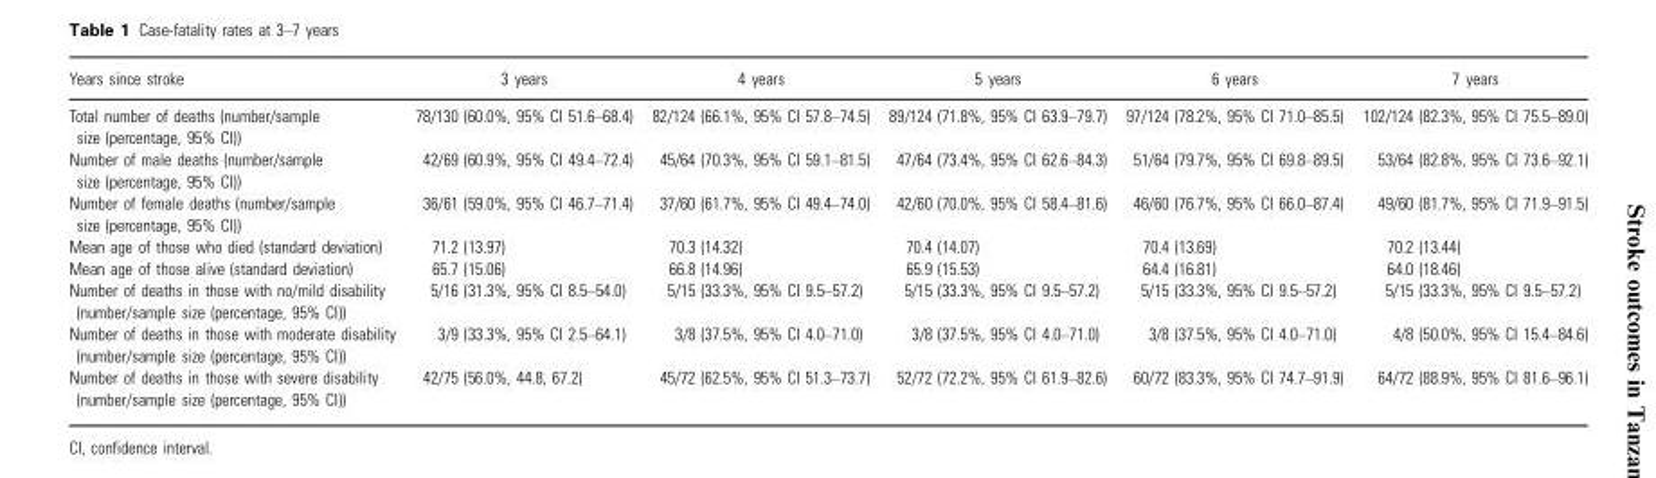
<table><thead><tr><td>Years since stroke</td><td>3 years</td><td>4 years</td><td>5 years</td><td>6 years</td><td>7 years</td></tr></thead><tbody><tr><td>Total number of deaths (number/sample size (percentage, 95% CI))</td><td>78/130 (60.0%, 95% CI 51.6–68.4)</td><td>82/124 (66.1%, 95% CI 57.8–74.5)</td><td>89/124 (71.8%, 95% CI 63.9–79.7)</td><td>97/124 (78.2%, 95% CI 71.0–85.5)</td><td>102/124 (82.3%, 95% CI 75.5–89.0)</td></tr><tr><td>Number of male deaths (number/sample size (percentage, 95% CI))</td><td>42/69 (60.9%, 95% CI 49.4–72.4)</td><td>45/64 (70.3%, 95% CI 59.1–81.5)</td><td>47/64 (73.4%, 95% CI 62.6–84.3)</td><td>51/64 (79.7%, 95% CI 69.8–89.5)</td><td>53/64 (82.8%, 95% CI 73.6–92.1)</td></tr><tr><td>Number of female deaths (number/sample size (percentage, 95% CI))</td><td>36/61 (59.0%, 95% CI 46.7–71.4)</td><td>37/60 (61.7%, 95% CI 49.4–74.0)</td><td>42/60 (70.0%, 95% CI 58.4–81.6)</td><td>46/60 (76.7%, 95% CI 66.0–87.4)</td><td>49/60 (81.7%, 95% CI 71.9–91.5)</td></tr><tr><td>Mean age of those who died (standard deviation)</td><td>71.2 (13.97)</td><td>70.3 (14.32)</td><td>70.4 (14.07)</td><td>70.4 (13.69)</td><td>70.2 (13.44)</td></tr><tr><td>Mean age of those alive (standard deviation)</td><td>65.7 (15.06)</td><td>66.8 (14.96)</td><td>65.9 (15.53)</td><td>64.4 (16.81)</td><td>64.0 (18.46)</td></tr><tr><td>Number of deaths in those with no/mild disability (number/sample size (percentage, 95% CI))</td><td>5/16 (31.3%, 95% CI 8.5–54.0)</td><td>5/15 (33.3%, 95% CI 9.5–57.2)</td><td>5/15 (33.3%, 95% CI 9.5–57.2)</td><td>5/15 (33.3%, 95% CI 9.5–57.2)</td><td>5/15 (33.3%, 95% CI 9.5–57.2)</td></tr><tr><td>Number of deaths in those with moderate disability (number/sample size (percentage, 95% CI))</td><td>3/9 (33.3%, 95% CI 2.5–64.1)</td><td>3/8 (37.5%, 95% CI 4.0–71.0)</td><td>3/8 (37.5%, 95% CI 4.0–71.0)</td><td>3/8 (37.5%, 95% CI 4.0–71.0)</td><td>4/8 (50.0%, 95% CI 15.4–84.6)</td></tr><tr><td>Number of deaths in those with severe disability (number/sample size (percentage, 95% CI))</td><td>42/75 (56.0%, 44.8, 67.2)</td><td>45/72 (62.5%, 95% CI 51.3–73.7)</td><td>52/72 (72.2%, 95% CI 61.9–82.6)</td><td>60/72 (83.3%, 95% CI 74.7–91.9)</td><td>64/72 (88.9%, 95% CI 81.6–96.1)</td></tr></tbody></table>